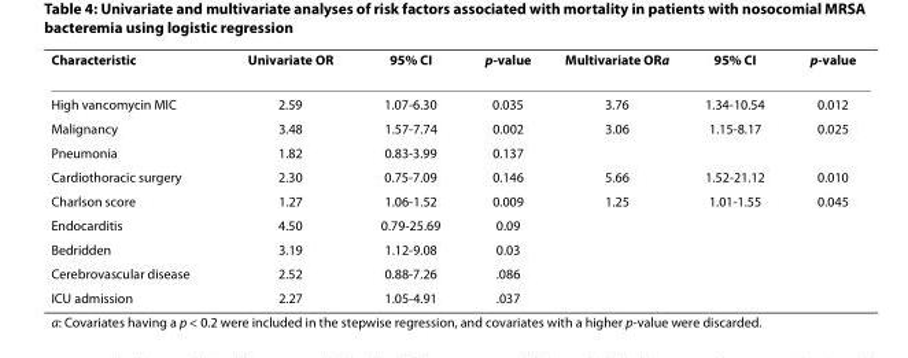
<table><thead><tr><td>Characteristic</td><td>Univariate OR</td><td>95% CI</td><td>p-value</td><td>Multivariate OR<sup>a</sup></td><td>95% CI</td><td>p-value</td></tr></thead><tbody><tr><td>High vancomycin MIC</td><td>2.59</td><td>1.07-6.30</td><td>0.035</td><td>3.76</td><td>1.34-10.54</td><td>0.012</td></tr><tr><td>Malignancy</td><td>3.48</td><td>1.57-7.74</td><td>0.002</td><td>3.06</td><td>1.15-8.17</td><td>0.025</td></tr><tr><td>Pneumonia</td><td>1.82</td><td>0.83-3.99</td><td>0.137</td><td></td><td></td><td></td></tr><tr><td>Cardiothoracic surgery</td><td>2.30</td><td>0.75-7.09</td><td>0.146</td><td>5.66</td><td>1.52-21.12</td><td>0.010</td></tr><tr><td>Charlson score</td><td>1.27</td><td>1.06-1.52</td><td>0.009</td><td>1.25</td><td>1.01-1.55</td><td>0.045</td></tr><tr><td>Endocarditis</td><td>4.50</td><td>0.79-25.69</td><td>0.09</td><td></td><td></td><td></td></tr><tr><td>Bedridden</td><td>3.19</td><td>1.12-9.08</td><td>0.03</td><td></td><td></td><td></td></tr><tr><td>Cerebrovascular disease</td><td>2.52</td><td>0.88-7.26</td><td>.086</td><td></td><td></td><td></td></tr><tr><td>ICU admission</td><td>2.27</td><td>1.05-4.91</td><td>.037</td><td></td><td></td><td></td></tr></tbody></table>